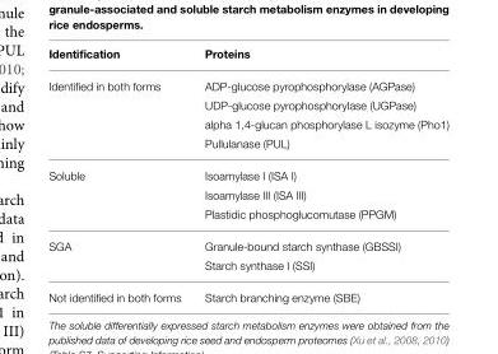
<table><thead><tr><td>Identification</td><td>Proteins</td></tr></thead><tbody><tr><td rowspan="4">Identified in both forms</td><td>ADP-glucose pyrophosphorylase (AGPase)</td></tr><tr><td>UDP-glucose pyrophosphorylase (UGPase)</td></tr><tr><td>alpha 1,4-glucan phosphorylase L isozyme (Pho1)</td></tr><tr><td>Pullulanase (PUL)</td></tr><tr><td rowspan="3">Soluble</td><td>Isoamylase I (ISA I)</td></tr><tr><td>Isoamylase III (ISA III)</td></tr><tr><td>Plastidic phosphoglucomutase (PPGM)</td></tr><tr><td rowspan="2">SGA</td><td>Granule-bound starch synthase (GBSSI)</td></tr><tr><td>Starch synthase I (SSI)</td></tr><tr><td>Not identified in both forms</td><td>Starch branching enzyme (SBE)</td></tr></tbody></table>